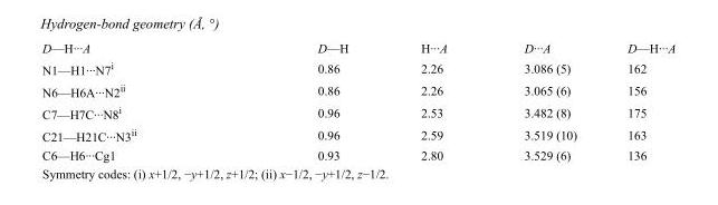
<table><tbody><tr><td>D—H···A</td><td>D—H</td><td>H···A</td><td>D···A</td><td>D—H···A</td></tr><tr><td>N1—H1···N7<sup>i</sup></td><td>0.86</td><td>2.26</td><td>3.086 (5)</td><td>162</td></tr><tr><td>N6—H6A···N2<sup>ii</sup></td><td>0.86</td><td>2.26</td><td>3.065 (6)</td><td>156</td></tr><tr><td>C7—H7C···N8<sup>i</sup></td><td>0.96</td><td>2.53</td><td>3.482 (8)</td><td>175</td></tr><tr><td>C21—H21C···N3<sup>ii</sup></td><td>0.96</td><td>2.59</td><td>3.519 (10)</td><td>163</td></tr><tr><td>C6—H6···Cg1</td><td>0.93</td><td>2.80</td><td>3.529 (6)</td><td>136</td></tr></tbody></table>